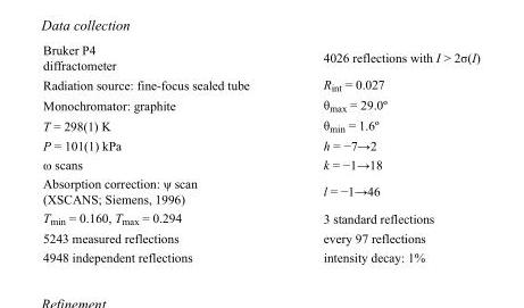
<table><tbody><tr><td>Bruker P4 diffractometer</td><td>4026 reflections with I &gt; 2σ(I)</td></tr><tr><td>Radiation source: fine-focus sealed tube</td><td>R<sub>int</sub> = 0.027</td></tr><tr><td>Monochromator: graphite</td><td>θ<sub>max</sub> = 29.0º</td></tr><tr><td>T = 298(1) K</td><td>θ<sub>min</sub> = 1.6º</td></tr><tr><td>P = 101(1) kPa</td><td>h = −7→2</td></tr><tr><td>ω scans</td><td>k = −1→18</td></tr><tr><td>Absorption correction: ψ scan (XSCANS; Siemens, 1996)</td><td>l = −1→46</td></tr><tr><td>T<sub>min</sub> = 0.160, T<sub>max</sub> = 0.294</td><td>3 standard reflections</td></tr><tr><td>5243 measured reflections</td><td>every 97 reflections</td></tr><tr><td>4948 independent reflections</td><td>intensity decay: 1%</td></tr></tbody></table>